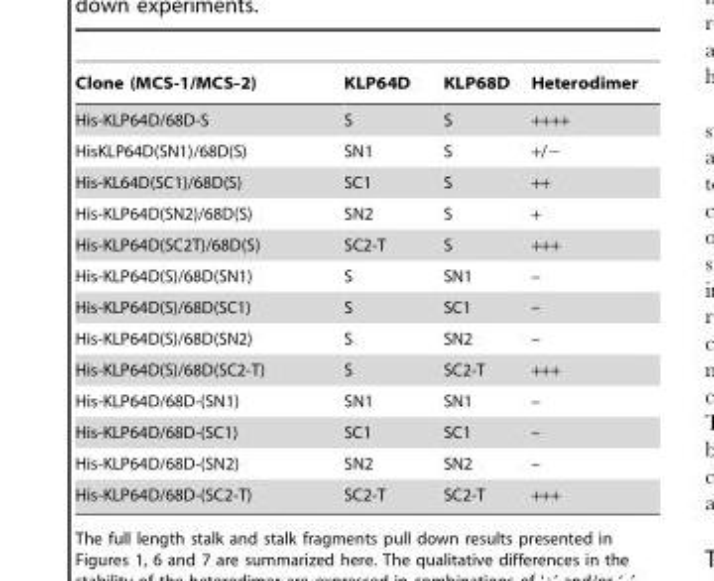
<table><thead><tr><td>Clone (MCS-1/MCS-2)</td><td>KLP64D</td><td>KLP68D</td><td>Heterodimer</td></tr></thead><tbody><tr><td>His-KLP64D/68D-S</td><td>S</td><td>S</td><td>++++</td></tr><tr><td>HisKLP64D(SN1)/68D(S)</td><td>SN1</td><td>S</td><td>+/−</td></tr><tr><td>His-KL64D(SC1)/68D(S)</td><td>SC1</td><td>S</td><td>++</td></tr><tr><td>His-KLP64D(SN2)/68D(S)</td><td>SN2</td><td>S</td><td>+</td></tr><tr><td>His-KLP64D(SC2T)/68D(S)</td><td>SC2-T</td><td>S</td><td>+++</td></tr><tr><td>His-KLP64D(S)/68D(SN1)</td><td>S</td><td>SN1</td><td>–</td></tr><tr><td>His-KLP64D(S)/68D(SC1)</td><td>S</td><td>SC1</td><td>–</td></tr><tr><td>His-KLP64D(S)/68D(SN2)</td><td>S</td><td>SN2</td><td>–</td></tr><tr><td>His-KLP64D(S)/68D(SC2-T)</td><td>S</td><td>SC2-T</td><td>+++</td></tr><tr><td>His-KLP64D/68D-(SN1)</td><td>SN1</td><td>SN1</td><td>–</td></tr><tr><td>His-KLP64D/68D-(SC1)</td><td>SC1</td><td>SC1</td><td>–</td></tr><tr><td>His-KLP64D/68D-(SN2)</td><td>SN2</td><td>SN2</td><td>–</td></tr><tr><td>His-KLP64D/68D-(SC2-T)</td><td>SC2-T</td><td>SC2-T</td><td>+++</td></tr></tbody></table>